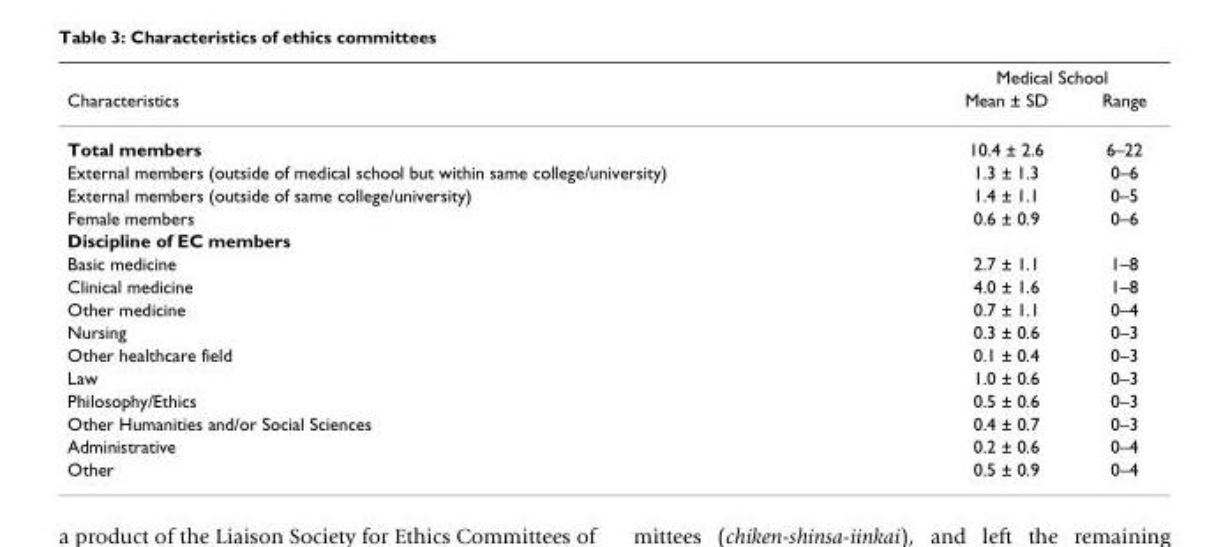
<table><thead><tr><td rowspan="2">Characteristics</td><td colspan="2">Medical School</td></tr><tr><td>Mean ± SD</td><td>Range</td></tr></thead><tbody><tr><td>Total members</td><td>10.4 ± 2.6</td><td>6–22</td></tr><tr><td>External members (outside of medical school but within same college/university)</td><td>1.3 ± 1.3</td><td>0–6</td></tr><tr><td>External members (outside of same college/university)</td><td>1.4 ± 1.1</td><td>0–5</td></tr><tr><td>Female members</td><td>0.6 ± 0.9</td><td>0–6</td></tr><tr><td colspan="3">Discipline of EC members</td></tr><tr><td>Basic medicine</td><td>2.7 ± 1.1</td><td>1–8</td></tr><tr><td>Clinical medicine</td><td>4.0 ± 1.6</td><td>1–8</td></tr><tr><td>Other medicine</td><td>0.7 ± 1.1</td><td>0–4</td></tr><tr><td>Nursing</td><td>0.3 ± 0.6</td><td>0–3</td></tr><tr><td>Other healthcare field</td><td>0.1 ± 0.4</td><td>0–3</td></tr><tr><td>Law</td><td>1.0 ± 0.6</td><td>0–3</td></tr><tr><td>Philosophy/Ethics</td><td>0.5 ± 0.6</td><td>0–3</td></tr><tr><td>Other Humanities and/or Social Sciences</td><td>0.4 ± 0.7</td><td>0–3</td></tr><tr><td>Administrative</td><td>0.2 ± 0.6</td><td>0–4</td></tr><tr><td>Other</td><td>0.5 ± 0.9</td><td>0–4</td></tr></tbody></table>